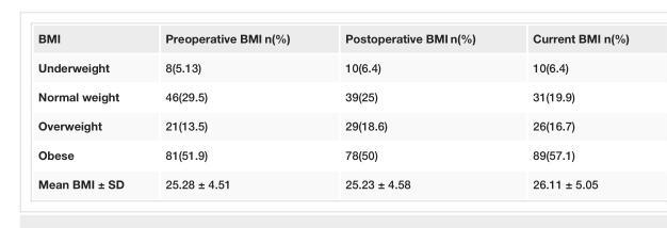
<table><tbody><tr><td>BMI</td><td>Preoperative BMI n(%)</td><td>Postoperative BMI n(%)</td><td>Current BMI n(%)</td></tr><tr><td>Underweight</td><td>8(5.13)</td><td>10(6.4)</td><td>10(6.4)</td></tr><tr><td>Normal weight</td><td>46(29.5)</td><td>39(25)</td><td>31(19.9)</td></tr><tr><td>Overweight</td><td>21(13.5)</td><td>29(18.6)</td><td>26(16.7)</td></tr><tr><td>Obese</td><td>81(51.9)</td><td>78(50)</td><td>89(57.1)</td></tr><tr><td>Mean BMI ± SD</td><td>25.28 ± 4.51</td><td>25.23 ± 4.58</td><td>26.11 ± 5.05</td></tr></tbody></table>